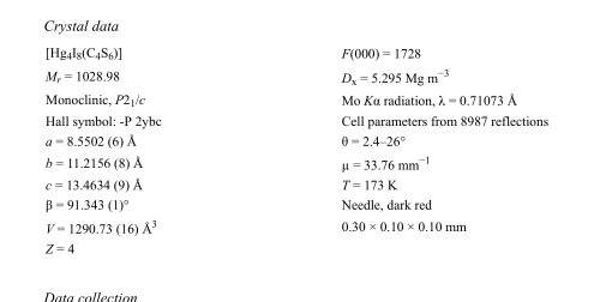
<table><tbody><tr><td>[Hg<sub>4</sub>I<sub>8</sub>(C<sub>4</sub>S<sub>6</sub>)]</td><td>F(000) = 1728</td></tr><tr><td>M<sub>r</sub> = 1028.98</td><td>D<sub>x</sub> = 5.295 Mg m<sup>−3</sup></td></tr><tr><td>Monoclinic, P2<sub>1</sub>/c</td><td>Mo Kα radiation, λ = 0.71073 Å</td></tr><tr><td>Hall symbol: -P 2ybc</td><td>Cell parameters from 8987 reflections</td></tr><tr><td>a = 8.5502 (6) Å</td><td>θ = 2.4–26°</td></tr><tr><td>b = 11.2156 (8) Å</td><td>µ = 33.76 mm<sup>−1</sup></td></tr><tr><td>c = 13.4634 (9) Å</td><td>T = 173 K</td></tr><tr><td>β = 91.343 (1)°</td><td>Needle, dark red</td></tr><tr><td>V = 1290.73 (16) Å<sup>3</sup></td><td>0.30 × 0.10 × 0.10 mm</td></tr><tr><td>Z = 4</td><td></td></tr></tbody></table>